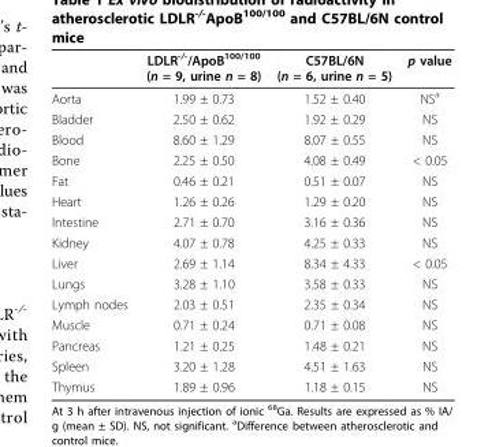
<table><thead><tr><td></td><td>LDLR<sup>-/-</sup>/ApoB<sup>100/100</sup> (n = 9, urine n = 8)</td><td>C57BL/6N (n = 6, urine n = 5)</td><td>p value</td></tr></thead><tbody><tr><td>Aorta</td><td>1.99 ± 0.73</td><td>1.52 ± 0.40</td><td>NS<sup>a</sup></td></tr><tr><td>Bladder</td><td>2.50 ± 0.62</td><td>1.92 ± 0.29</td><td>NS</td></tr><tr><td>Blood</td><td>8.60 ± 1.29</td><td>8.07 ± 0.55</td><td>NS</td></tr><tr><td>Bone</td><td>2.25 ± 0.50</td><td>4.08 ± 0.49</td><td>&lt; 0.05</td></tr><tr><td>Fat</td><td>0.46 ± 0.21</td><td>0.51 ± 0.07</td><td>NS</td></tr><tr><td>Heart</td><td>1.26 ± 0.26</td><td>1.29 ± 0.20</td><td>NS</td></tr><tr><td>Intestine</td><td>2.71 ± 0.70</td><td>3.16 ± 0.36</td><td>NS</td></tr><tr><td>Kidney</td><td>4.07 ± 0.78</td><td>4.25 ± 0.33</td><td>NS</td></tr><tr><td>Liver</td><td>2.69 ± 1.14</td><td>8.34 ± 4.33</td><td>&lt; 0.05</td></tr><tr><td>Lungs</td><td>3.28 ± 1.10</td><td>3.58 ± 0.33</td><td>NS</td></tr><tr><td>Lymph nodes</td><td>2.03 ± 0.51</td><td>2.35 ± 0.34</td><td>NS</td></tr><tr><td>Muscle</td><td>0.71 ± 0.24</td><td>0.71 ± 0.08</td><td>NS</td></tr><tr><td>Pancreas</td><td>1.21 ± 0.25</td><td>1.48 ± 0.21</td><td>NS</td></tr><tr><td>Spleen</td><td>3.20 ± 1.28</td><td>4.51 ± 1.63</td><td>NS</td></tr><tr><td>Thymus</td><td>1.89 ± 0.96</td><td>1.18 ± 0.15</td><td>NS</td></tr></tbody></table>